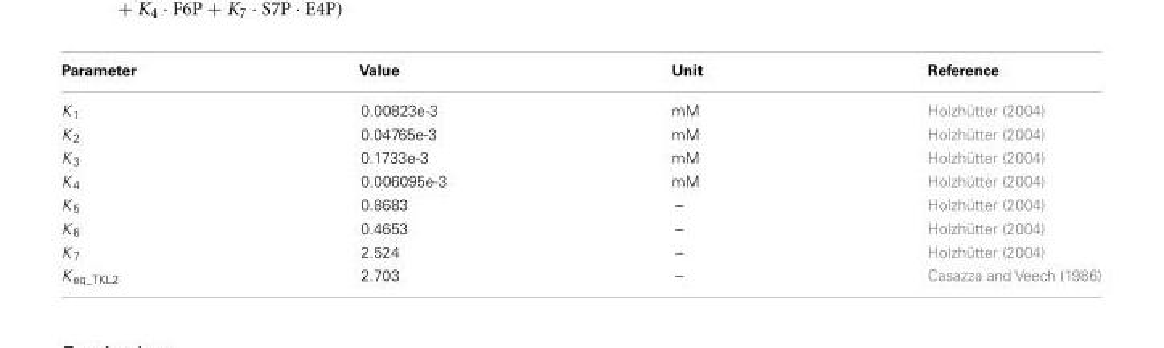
<table><thead><tr><td>Parameter</td><td>Value</td><td>Unit</td><td>Reference</td></tr></thead><tbody><tr><td>K <sub>1</sub></td><td>0.00823e-3</td><td>mM</td><td>Holzhütter (2004)</td></tr><tr><td>K <sub>2</sub></td><td>0.04765e-3</td><td>mM</td><td>Holzhütter (2004)</td></tr><tr><td>K <sub>3</sub></td><td>0.1733e-3</td><td>mM</td><td>Holzhütter (2004)</td></tr><tr><td>K <sub>4</sub></td><td>0.006095e-3</td><td>mM</td><td>Holzhütter (2004)</td></tr><tr><td>K <sub>5</sub></td><td>0.8683</td><td>–</td><td>Holzhütter (2004)</td></tr><tr><td>K <sub>6</sub></td><td>0.4653</td><td>–</td><td>Holzhütter (2004)</td></tr><tr><td>K <sub>7</sub></td><td>2.524</td><td>–</td><td>Holzhütter (2004)</td></tr><tr><td>K <sub>eq_TKL2</sub></td><td>2.703</td><td>–</td><td>Casazza and Veech (1986)</td></tr></tbody></table>